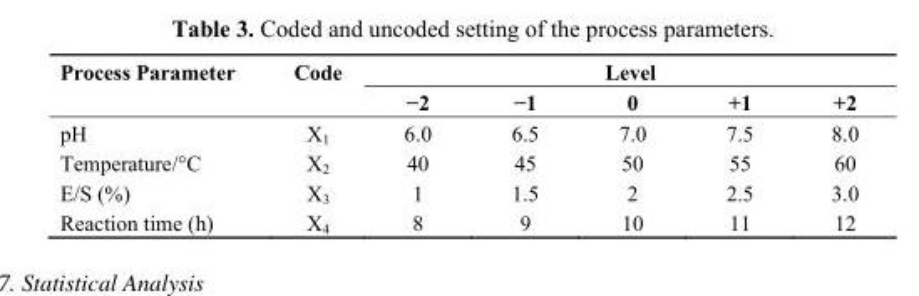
<table><thead><tr><td rowspan="2">Process Parameter</td><td rowspan="2">Code</td><td colspan="5">Level</td></tr><tr><td>−2</td><td>−1</td><td>0</td><td>+1</td><td>+2</td></tr></thead><tbody><tr><td>pH</td><td>X<sub>1</sub></td><td>6.0</td><td>6.5</td><td>7.0</td><td>7.5</td><td>8.0</td></tr><tr><td>Temperature/°C</td><td>X<sub>2</sub></td><td>40</td><td>45</td><td>50</td><td>55</td><td>60</td></tr><tr><td>E/S (%)</td><td>X<sub>3</sub></td><td>1</td><td>1.5</td><td>2</td><td>2.5</td><td>3.0</td></tr><tr><td>Reaction time (h)</td><td>X<sub>4</sub></td><td>8</td><td>9</td><td>10</td><td>11</td><td>12</td></tr></tbody></table>